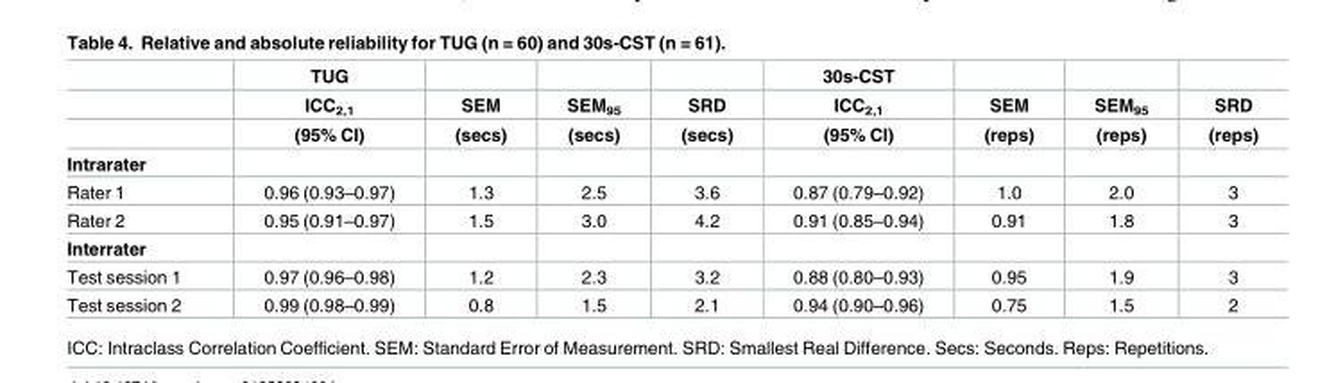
<table><thead><tr><td rowspan="3"></td><td rowspan="3">TUG ICC<sub>2,1</sub> (95% CI)</td><td rowspan="3">SEM (secs)</td><td rowspan="3">SEM<sub>95</sub> (secs)</td><td rowspan="3">SRD (secs)</td><td rowspan="3">30s-CST ICC<sub>2,1</sub> (95% CI)</td><td rowspan="3">SEM (reps)</td><td rowspan="3">SEM<sub>95</sub> (reps)</td><td rowspan="3">SRD (reps)</td></tr><tr></tr><tr></tr></thead><tbody><tr><td colspan="9">Intrarater</td></tr><tr><td>Rater 1</td><td>0.96 (0.93–0.97)</td><td>1.3</td><td>2.5</td><td>3.6</td><td>0.87 (0.79–0.92)</td><td>1.0</td><td>2.0</td><td>3</td></tr><tr><td>Rater 2</td><td>0.95 (0.91–0.97)</td><td>1.5</td><td>3.0</td><td>4.2</td><td>0.91 (0.85–0.94)</td><td>0.91</td><td>1.8</td><td>3</td></tr><tr><td colspan="9">Interrater</td></tr><tr><td>Test session 1</td><td>0.97 (0.96–0.98)</td><td>1.2</td><td>2.3</td><td>3.2</td><td>0.88 (0.80–0.93)</td><td>0.95</td><td>1.9</td><td>3</td></tr><tr><td>Test session 2</td><td>0.99 (0.98–0.99)</td><td>0.8</td><td>1.5</td><td>2.1</td><td>0.94 (0.90–0.96)</td><td>0.75</td><td>1.5</td><td>2</td></tr></tbody></table>